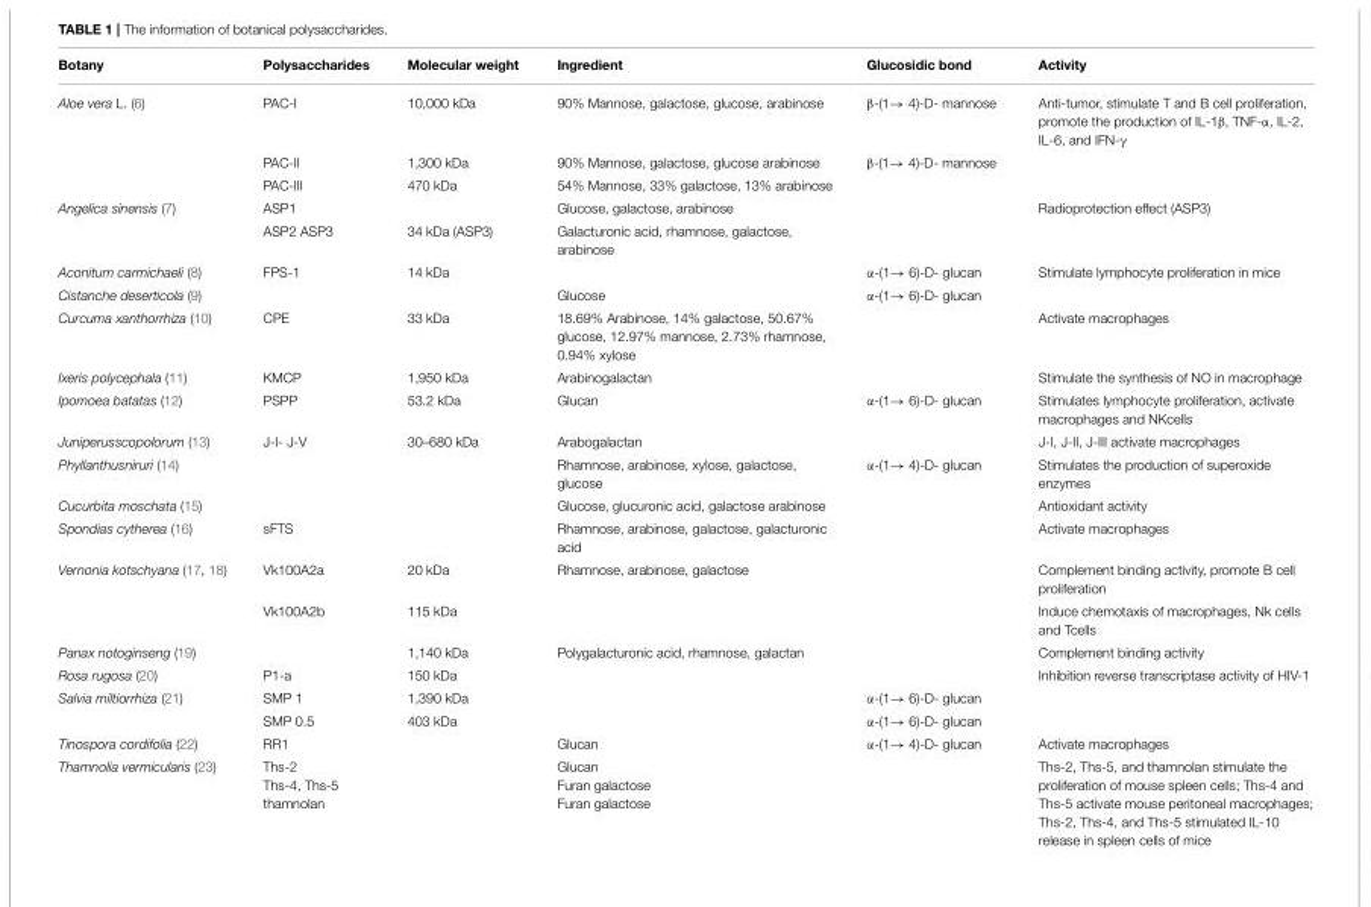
<table><thead><tr><td>Botany</td><td>Polysaccharides</td><td>Molecular weight</td><td>Ingredient</td><td>Glucosidic bond</td><td>Activity</td></tr></thead><tbody><tr><td rowspan="3">Aloe vera L. (6)</td><td>PAC-I</td><td>10,000 kDa</td><td>90% Mannose, galactose, glucose, arabinose</td><td>β-(1→ 4)-D- mannose</td><td>Anti-tumor, stimulate T and B cell proliferation, promote the production of IL-1β, TNF-α, IL-2, IL-6, and IFN-γ</td></tr><tr><td>PAC-II</td><td>1,300 kDa</td><td>90% Mannose, galactose, glucose arabinose</td><td>β-(1→ 4)-D- mannose</td><td></td></tr><tr><td>PAC-III</td><td>470 kDa</td><td>54% Mannose, 33% galactose, 13% arabinose</td><td></td><td></td></tr><tr><td rowspan="2">Angelica sinensis (7)</td><td>ASP1</td><td></td><td>Glucose, galactose, arabinose</td><td></td><td>Radioprotection effect (ASP3)</td></tr><tr><td>ASP2 ASP3</td><td>34 kDa (ASP3)</td><td>Galacturonic acid, rhamnose, galactose, arabinose</td><td></td><td></td></tr><tr><td>Aconitum carmichaeli (8)</td><td>FPS-1</td><td>14 kDa</td><td></td><td>α-(1→ 6)-D- glucan</td><td>Stimulate lymphocyte proliferation in mice</td></tr><tr><td>Cistanche deserticola (9)</td><td></td><td></td><td>Glucose</td><td>α-(1→ 6)-D- glucan</td><td></td></tr><tr><td>Curcuma xanthorrhiza (10)</td><td>CPE</td><td>33 kDa</td><td>18.69% Arabinose, 14% galactose, 50.67% glucose, 12.97% mannose, 2.73% rhamnose, 0.94% xylose</td><td></td><td>Activate macrophages</td></tr><tr><td>Ixeris polycephala (11)</td><td>KMCP</td><td>1,950 kDa</td><td>Arabinogalactan</td><td></td><td>Stimulate the synthesis of NO in macrophage</td></tr><tr><td>Ipomoea batatas (12)</td><td>PSPP</td><td>53.2 kDa</td><td>Glucan</td><td>α-(1→ 6)-D- glucan</td><td>Stimulates lymphocyte proliferation, activate macrophages and NKcells</td></tr><tr><td>Juniperusscopolorum (13)</td><td>J-I- J-V</td><td>30–680 kDa</td><td>Arabogalactan</td><td></td><td>J-I, J-II, J-III activate macrophages</td></tr><tr><td>Phyllanthusniruri (14)</td><td></td><td></td><td>Rhamnose, arabinose, xylose, galactose, glucose</td><td>α-(1→ 4)-D- glucan</td><td>Stimulates the production of superoxide enzymes</td></tr><tr><td>Cucurbita moschata (15)</td><td></td><td></td><td>Glucose, glucuronic acid, galactose arabinose</td><td></td><td>Antioxidant activity</td></tr><tr><td>Spondias cytherea (16)</td><td>sFTS</td><td></td><td>Rhamnose, arabinose, galactose, galacturonic acid</td><td></td><td>Activate macrophages</td></tr><tr><td rowspan="2">Vernonia kotschyana (17, 18)</td><td>Vk100A2a</td><td>20 kDa</td><td>Rhamnose, arabinose, galactose</td><td></td><td>Complement binding activity, promote B cell proliferation</td></tr><tr><td>Vk100A2b</td><td>115 kDa</td><td></td><td></td><td>Induce chemotaxis of macrophages, Nk cells and Tcells</td></tr><tr><td>Panax notoginseng (19)</td><td></td><td>1,140 kDa</td><td>Polygalacturonic acid, rhamnose, galactan</td><td></td><td>Complement binding activity</td></tr><tr><td>Rosa rugosa (20)</td><td>P1-a</td><td>150 kDa</td><td></td><td></td><td>Inhibition reverse transcriptase activity of HIV-1</td></tr><tr><td rowspan="2">Salvia miltiorrhiza (21)</td><td>SMP 1</td><td>1,390 kDa</td><td></td><td>α-(1→ 6)-D- glucan</td><td></td></tr><tr><td>SMP 0.5</td><td>403 kDa</td><td></td><td>α-(1→ 6)-D- glucan</td><td></td></tr><tr><td>Tinospora cordifolia (22)</td><td>RR1</td><td></td><td>Glucan</td><td>α-(1→ 4)-D- glucan</td><td>Activate macrophages</td></tr><tr><td>Thamnolia vermicularis (23)</td><td>Ths-2 Ths-4, Ths-5 thamnolan</td><td></td><td>Glucan Furan galactose Furan galactose</td><td></td><td>Ths-2, Ths-5, and thamnolan stimulate the proliferation of mouse spleen cells; Ths-4 and Ths-5 activate mouse peritoneal macrophages; Ths-2, Ths-4, and Ths-5 stimulated IL-10 release in spleen cells of mice</td></tr></tbody></table>